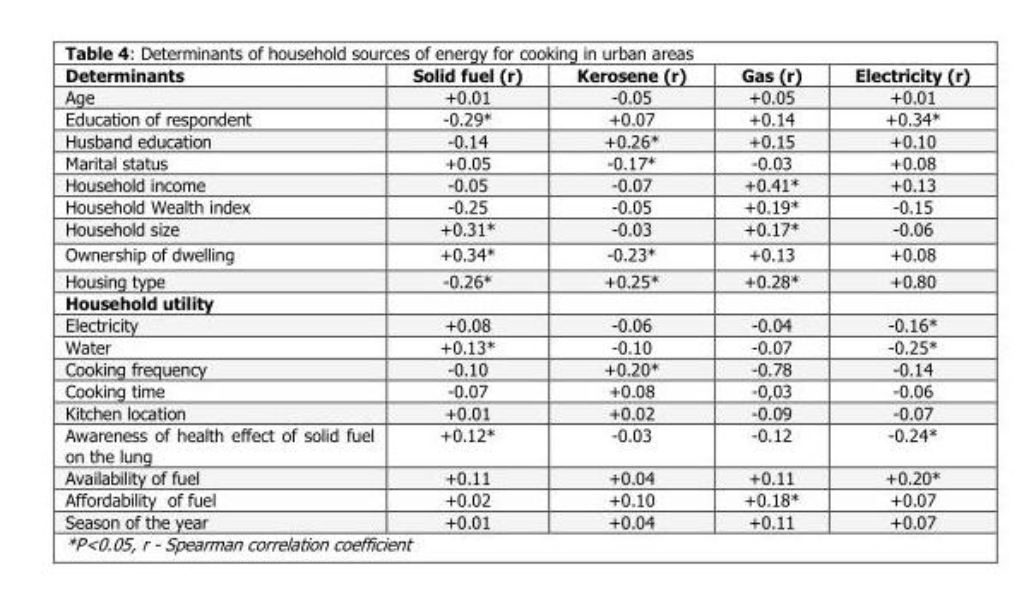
<table><thead><tr><td>Determinants</td><td>Solid fuel (r)</td><td>Kerosene (r)</td><td>Gas (r)</td><td>Electricity (r)</td></tr></thead><tbody><tr><td>Age</td><td>+0.01</td><td>-0.05</td><td>+0.05</td><td>+0.01</td></tr><tr><td>Education of respondent</td><td>-0.29*</td><td>+0.07</td><td>+0.14</td><td>+0.34*</td></tr><tr><td>Husband education</td><td>-0.14</td><td>+0.26*</td><td>+0.15</td><td>+0.10</td></tr><tr><td>Marital status</td><td>+0.05</td><td>-0.17*</td><td>-0.03</td><td>+0.08</td></tr><tr><td>Household income</td><td>-0.05</td><td>-0.07</td><td>+0.41*</td><td>+0.13</td></tr><tr><td>Household Wealth index</td><td>-0.25</td><td>-0.05</td><td>+0.19*</td><td>-0.15</td></tr><tr><td>Household size</td><td>+0.31*</td><td>-0.03</td><td>+0.17*</td><td>-0.06</td></tr><tr><td>Ownership of dwelling</td><td>+0.34*</td><td>-0.23*</td><td>+0.13</td><td>+0.08</td></tr><tr><td>Housing type</td><td>-0.26*</td><td>+0.25*</td><td>+0.28*</td><td>+0.80</td></tr><tr><td colspan="5">Household utility</td></tr><tr><td>Electricity</td><td>+0.08</td><td>-0.06</td><td>-0.04</td><td>-0.16*</td></tr><tr><td>Water</td><td>+0.13*</td><td>-0.10</td><td>-0.07</td><td>-0.25*</td></tr><tr><td>Cooking frequency</td><td>-0.10</td><td>+0.20*</td><td>-0.78</td><td>-0.14</td></tr><tr><td>Cooking time</td><td>-0.07</td><td>+0.08</td><td>-0,03</td><td>-0.06</td></tr><tr><td>Kitchen location</td><td>+0.01</td><td>+0.02</td><td>-0.09</td><td>-0.07</td></tr><tr><td>Awareness of health effect of solid fuel on the lung</td><td>+0.12*</td><td>-0.03</td><td>-0.12</td><td>-0.24*</td></tr><tr><td>Availability of fuel</td><td>+0.11</td><td>+0.04</td><td>+0.11</td><td>+0.20*</td></tr><tr><td>Affordability of fuel</td><td>+0.02</td><td>+0.10</td><td>+0.18*</td><td>+0.07</td></tr><tr><td>Season of the year</td><td>+0.01</td><td>+0.04</td><td>+0.11</td><td>+0.07</td></tr></tbody></table>